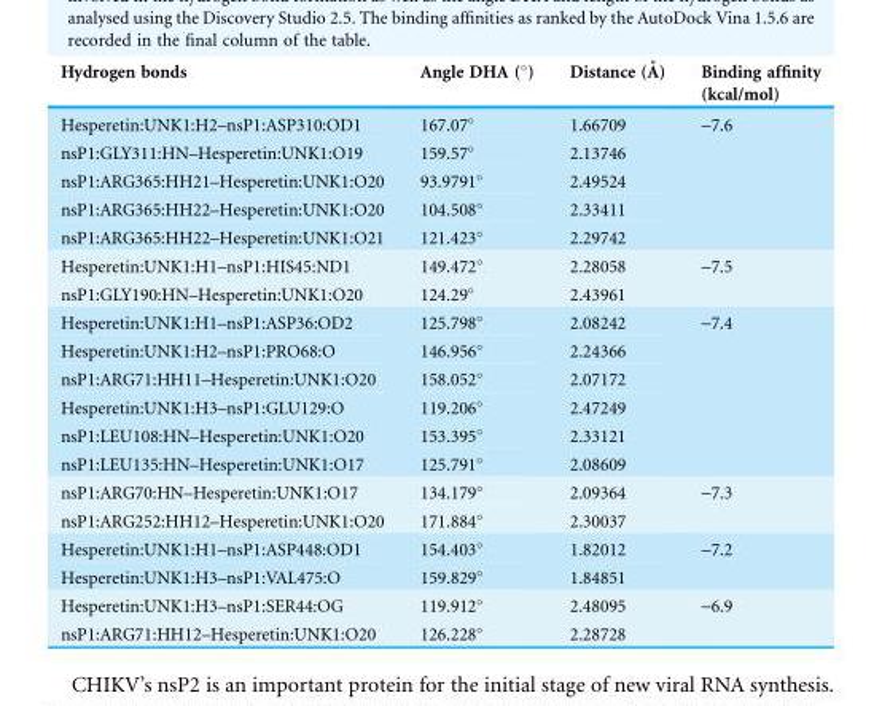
<table><thead><tr><td>Hydrogen bonds</td><td>Angle DHA (°)</td><td>Distance (A˚ )</td><td>Binding affinity (kcal/mol)</td></tr></thead><tbody><tr><td>Hesperetin:UNK1:H2–nsP1:ASP310:OD1</td><td>167.07°</td><td>1.66709</td><td rowspan="5">-7.6</td></tr><tr><td>nsP1:GLY311:HN–Hesperetin:UNK1:O19</td><td>159.57°</td><td>2.13746</td></tr><tr><td>nsP1:ARG365:HH21–Hesperetin:UNK1:O20</td><td>93.9791°</td><td>2.49524</td></tr><tr><td>nsP1:ARG365:HH22–Hesperetin:UNK1:O20</td><td>104.508°</td><td>2.33411</td></tr><tr><td>nsP1:ARG365:HH22–Hesperetin:UNK1:O21</td><td>121.423°</td><td>2.29742</td></tr><tr><td>Hesperetin:UNK1:H1–nsP1:HIS45:ND1</td><td>149.472°</td><td>2.28058</td><td rowspan="2">-7.5</td></tr><tr><td>nsP1:GLY190:HN–Hesperetin:UNK1:O20</td><td>124.29°</td><td>2.43961</td></tr><tr><td>Hesperetin:UNK1:H1–nsP1:ASP36:OD2</td><td>125.798°</td><td>2.08242</td><td rowspan="6">-7.4</td></tr><tr><td>Hesperetin:UNK1:H2–nsP1:PRO68:O</td><td>146.956°</td><td>2.24366</td></tr><tr><td>nsP1:ARG71:HH11–Hesperetin:UNK1:O20</td><td>158.052°</td><td>2.07172</td></tr><tr><td>Hesperetin:UNK1:H3–nsP1:GLU129:O</td><td>119.206°</td><td>2.47249</td></tr><tr><td>nsP1:LEU108:HN–Hesperetin:UNK1:O20</td><td>153.395°</td><td>2.33121</td></tr><tr><td>nsP1:LEU135:HN–Hesperetin:UNK1:O17</td><td>125.791°</td><td>2.08609</td></tr><tr><td>nsP1:ARG70:HN–Hesperetin:UNK1:O17</td><td>134.179°</td><td>2.09364</td><td rowspan="2">-7.3</td></tr><tr><td>nsP1:ARG252:HH12–Hesperetin:UNK1:O20</td><td>171.884°</td><td>2.30037</td></tr><tr><td>Hesperetin:UNK1:H1–nsP1:ASP448:OD1</td><td>154.403°</td><td>1.82012</td><td rowspan="2">-7.2</td></tr><tr><td>Hesperetin:UNK1:H3–nsP1:VAL475:O</td><td>159.829°</td><td>1.84851</td></tr><tr><td>Hesperetin:UNK1:H3–nsP1:SER44:OG</td><td>119.912°</td><td>2.48095</td><td rowspan="2">-6.9</td></tr><tr><td>nsP1:ARG71:HH12–Hesperetin:UNK1:O20</td><td>126.228°</td><td>2.28728</td></tr></tbody></table>